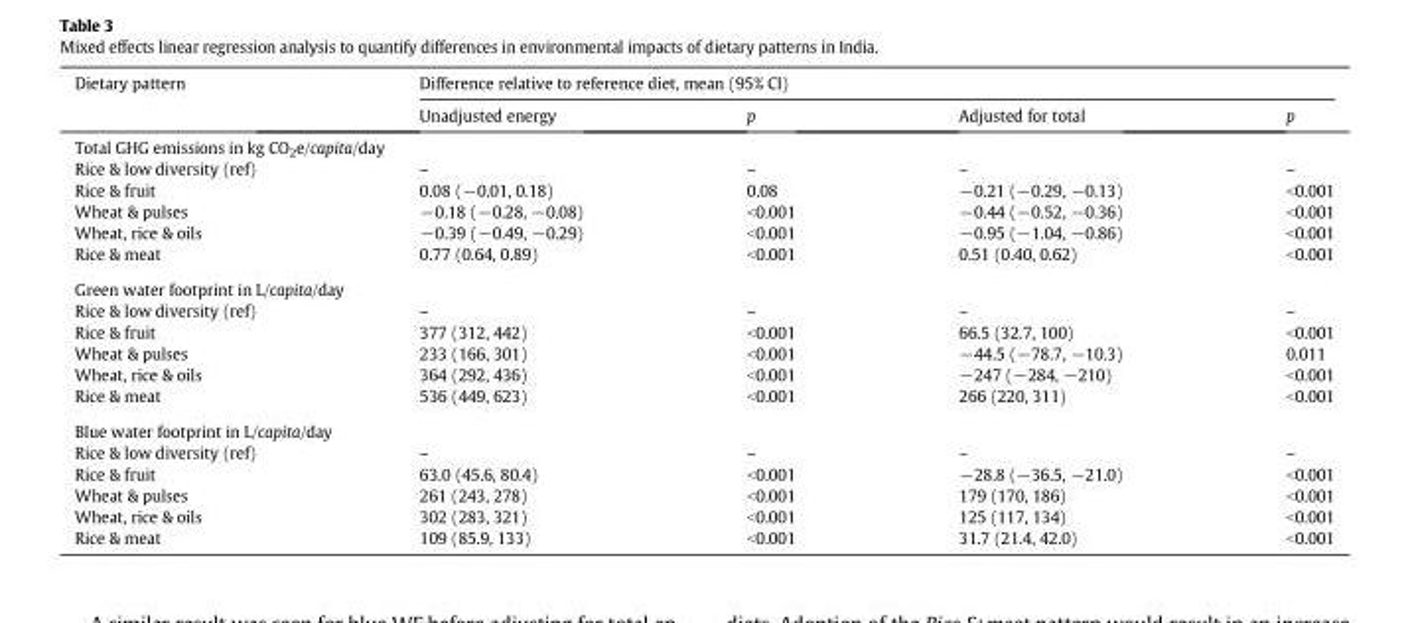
<table><thead><tr><td rowspan="2">Dietary pattern</td><td colspan="4">Difference relative to reference diet, mean (95% CI)</td></tr><tr><td>Unadjusted energy</td><td>p</td><td>Adjusted for total</td><td>p</td></tr></thead><tbody><tr><td colspan="5">Total GHG emissions in kg CO<sub>2</sub>e/capita/day</td></tr><tr><td>Rice &amp; low diversity (ref)</td><td>–</td><td>–</td><td>–</td><td>–</td></tr><tr><td>Rice &amp; fruit</td><td>0.08 (−0.01, 0.18)</td><td>0.08</td><td>−0.21 (−0.29, −0.13)</td><td>&lt;0.001</td></tr><tr><td>Wheat &amp; pulses</td><td>−0.18 (−0.28, −0.08)</td><td>&lt;0.001</td><td>−0.44 (−0.52, −0.36)</td><td>&lt;0.001</td></tr><tr><td>Wheat, rice &amp; oils</td><td>−0.39 (−0.49, −0.29)</td><td>&lt;0.001</td><td>−0.95 (−1.04, −0.86)</td><td>&lt;0.001</td></tr><tr><td>Rice &amp; meat</td><td>0.77 (0.64, 0.89)</td><td>&lt;0.001</td><td>0.51 (0.40, 0.62)</td><td>&lt;0.001</td></tr><tr><td colspan="5">Green water footprint in L/capita/day</td></tr><tr><td>Rice &amp; low diversity (ref)</td><td>–</td><td>–</td><td>–</td><td>–</td></tr><tr><td>Rice &amp; fruit</td><td>377 (312, 442)</td><td>&lt;0.001</td><td>66.5 (32.7, 100)</td><td>&lt;0.001</td></tr><tr><td>Wheat &amp; pulses</td><td>233 (166, 301)</td><td>&lt;0.001</td><td>−44.5 (−78.7, −10.3)</td><td>0.011</td></tr><tr><td>Wheat, rice &amp; oils</td><td>364 (292, 436)</td><td>&lt;0.001</td><td>−247 (−284, −210)</td><td>&lt;0.001</td></tr><tr><td>Rice &amp; meat</td><td>536 (449, 623)</td><td>&lt;0.001</td><td>266 (220, 311)</td><td>&lt;0.001</td></tr><tr><td colspan="5">Blue water footprint in L/capita/day</td></tr><tr><td>Rice &amp; low diversity (ref)</td><td>–</td><td>–</td><td>–</td><td>–</td></tr><tr><td>Rice &amp; fruit</td><td>63.0 (45.6, 80.4)</td><td>&lt;0.001</td><td>−28.8 (−36.5, −21.0)</td><td>&lt;0.001</td></tr><tr><td>Wheat &amp; pulses</td><td>261 (243, 278)</td><td>&lt;0.001</td><td>179 (170, 186)</td><td>&lt;0.001</td></tr><tr><td>Wheat, rice &amp; oils</td><td>302 (283, 321)</td><td>&lt;0.001</td><td>125 (117, 134)</td><td>&lt;0.001</td></tr><tr><td>Rice &amp; meat</td><td>109 (85.9, 133)</td><td>&lt;0.001</td><td>31.7 (21.4, 42.0)</td><td>&lt;0.001</td></tr></tbody></table>